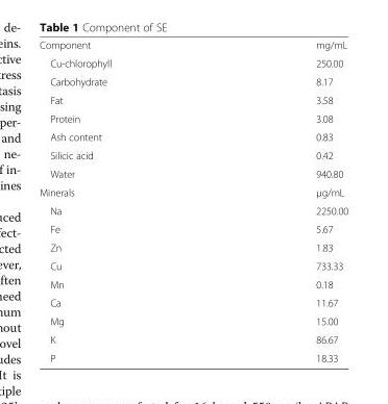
<table><tbody><tr><td>Component</td><td>mg/mL</td></tr><tr><td>Cu-chlorophyll</td><td>250.00</td></tr><tr><td>Carbohydrate</td><td>8.17</td></tr><tr><td>Fat</td><td>3.58</td></tr><tr><td>Protein</td><td>3.08</td></tr><tr><td>Ash content</td><td>0.83</td></tr><tr><td>Silicic acid</td><td>0.42</td></tr><tr><td>Water</td><td>940.80</td></tr><tr><td>Minerals</td><td>μg/mL</td></tr><tr><td>Na</td><td>2250.00</td></tr><tr><td>Fe</td><td>5.67</td></tr><tr><td>Zn</td><td>1.83</td></tr><tr><td>Cu</td><td>733.33</td></tr><tr><td>Mn</td><td>0.18</td></tr><tr><td>Ca</td><td>11.67</td></tr><tr><td>Mg</td><td>15.00</td></tr><tr><td>K</td><td>86.67</td></tr><tr><td>P</td><td>18.33</td></tr></tbody></table>